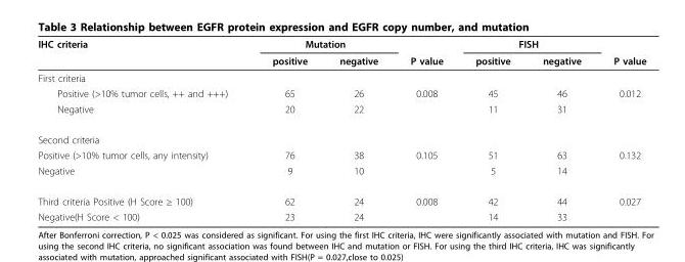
<table><thead><tr><td rowspan="2">IHC criteria</td><td colspan="2">Mutation</td><td rowspan="2">P value</td><td colspan="2">FISH</td><td rowspan="2">P value</td></tr><tr><td>positive</td><td>negative</td><td>positive</td><td>negative</td></tr></thead><tbody><tr><td colspan="7">First criteria</td></tr><tr><td>Positive (&gt;10% tumor cells, ++ and +++)</td><td>65</td><td>26</td><td>0.008</td><td>45</td><td>46</td><td>0.012</td></tr><tr><td>Negative</td><td>20</td><td>22</td><td></td><td>11</td><td>31</td><td></td></tr><tr><td colspan="7">Second criteria</td></tr><tr><td>Positive (&gt;10% tumor cells, any intensity)</td><td>76</td><td>38</td><td>0.105</td><td>51</td><td>63</td><td>0.132</td></tr><tr><td>Negative</td><td>9</td><td>10</td><td></td><td>5</td><td>14</td><td></td></tr><tr><td>Third criteria Positive (H Score ≥ 100)</td><td>62</td><td>24</td><td>0.008</td><td>42</td><td>44</td><td>0.027</td></tr><tr><td>Negative(H Score &lt; 100)</td><td>23</td><td>24</td><td></td><td>14</td><td>33</td><td></td></tr></tbody></table>